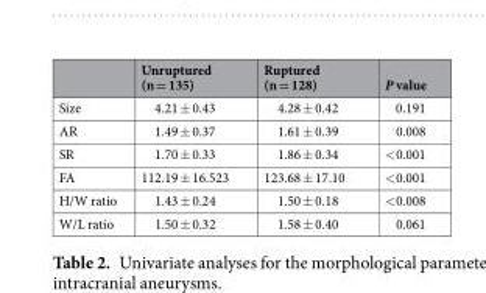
<table><thead><tr><td></td><td>Unruptured (n = 135)</td><td>Ruptured (n = 128)</td><td>P value</td></tr></thead><tbody><tr><td>Size</td><td>4.21 ± 0.43</td><td>4.28 ± 0.42</td><td>0.191</td></tr><tr><td>AR</td><td>1.49 ± 0.37</td><td>1.61 ± 0.39</td><td>0.008</td></tr><tr><td>SR</td><td>1.70 ± 0.33</td><td>1.86 ± 0.34</td><td>&lt;0.001</td></tr><tr><td>FA</td><td>112.19 ± 16.523</td><td>123.68 ± 17.10</td><td>&lt;0.001</td></tr><tr><td>H/W ratio</td><td>1.43 ± 0.24</td><td>1.50 ± 0.18</td><td>&lt;0.008</td></tr><tr><td>W/L ratio</td><td>1.50 ± 0.32</td><td>1.58 ± 0.40</td><td>0.061</td></tr></tbody></table>